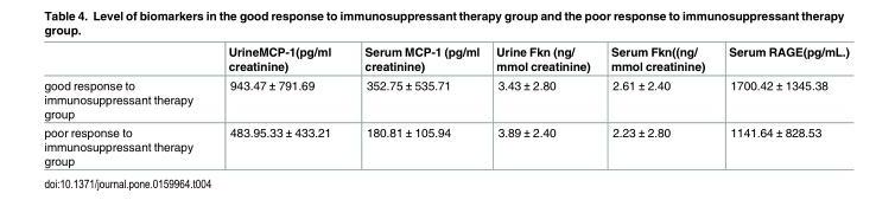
<table><thead><tr><td></td><td>UrineMCP-1(pg/ml creatinine)</td><td>Serum MCP-1 (pg/ml creatinine)</td><td>Urine Fkn (ng/ mmol creatinine)</td><td>Serum Fkn((ng/ mmol creatinine)</td><td>Serum RAGE(pg/mL.)</td></tr></thead><tbody><tr><td>good response to immunosuppressant therapy group</td><td>943.47 ± 791.69</td><td>352.75 ± 535.71</td><td>3.43 ± 2.80</td><td>2.61 ± 2.40</td><td>1700.42 ± 1345.38</td></tr><tr><td>poor response to immunosuppressant therapy group</td><td>483.95.33 ± 433.21</td><td>180.81 ± 105.94</td><td>3.89 ± 2.40</td><td>2.23 ± 2.80</td><td>1141.64 ± 828.53</td></tr></tbody></table>